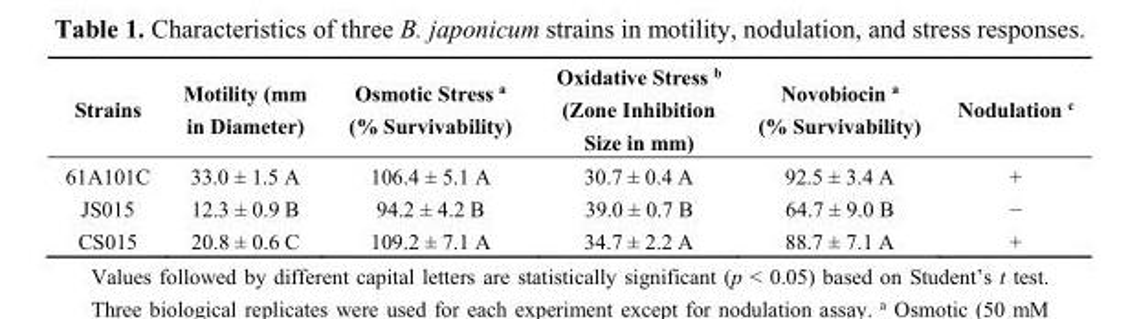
<table><thead><tr><td>Strains</td><td>Motility (mm in Diameter)</td><td>Osmotic Stress <sup>a</sup> (% Survivability)</td><td>Oxidative Stress <sup>b</sup> (Zone Inhibition Size in mm)</td><td>Novobiocin <sup>a</sup> (% Survivability)</td><td>Nodulation <sup>c</sup></td></tr></thead><tbody><tr><td>61A101C</td><td>33.0 ± 1.5 A</td><td>106.4 ± 5.1 A</td><td>30.7 ± 0.4 A</td><td>92.5 ± 3.4 A</td><td>+</td></tr><tr><td>JS015</td><td>12.3 ± 0.9 B</td><td>94.2 ± 4.2 B</td><td>39.0 ± 0.7 B</td><td>64.7 ± 9.0 B</td><td>−</td></tr><tr><td>CS015</td><td>20.8 ± 0.6 C</td><td>109.2 ± 7.1 A</td><td>34.7 ± 2.2 A</td><td>88.7 ± 7.1 A</td><td>+</td></tr></tbody></table>